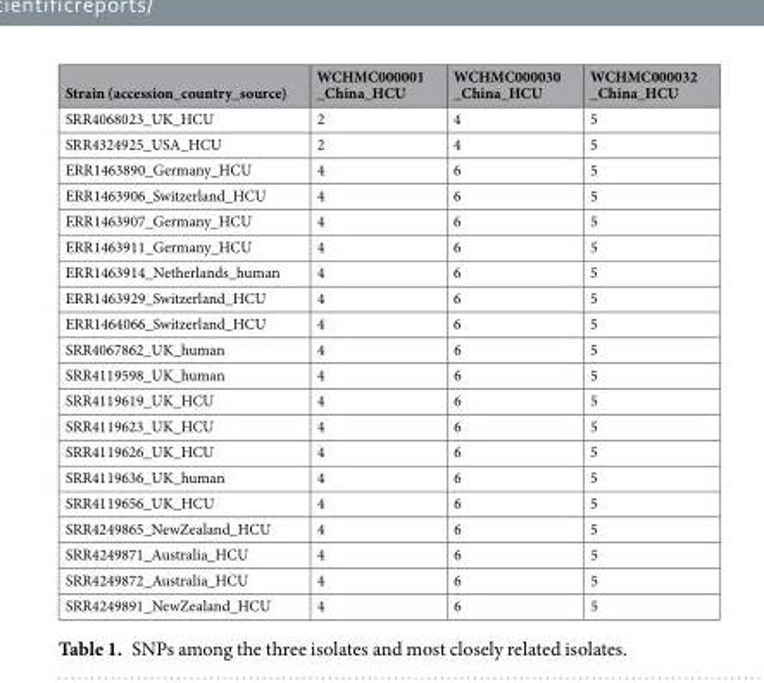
<table><thead><tr><td>Strain (accession_country_source)</td><td>WCHMC000001 _China_HCU</td><td>WCHMC000030 _China_HCU</td><td>WCHMC000032 _China_HCU</td></tr></thead><tbody><tr><td>SRR4068023_UK_HCU</td><td>2</td><td>4</td><td>5</td></tr><tr><td>SRR4324925_USA_HCU</td><td>2</td><td>4</td><td>5</td></tr><tr><td>ERR1463890_Germany_HCU</td><td>4</td><td>6</td><td>5</td></tr><tr><td>ERR1463906_Switzerland_HCU</td><td>4</td><td>6</td><td>5</td></tr><tr><td>ERR1463907_Germany_HCU</td><td>4</td><td>6</td><td>5</td></tr><tr><td>ERR1463911_Germany_HCU</td><td>4</td><td>6</td><td>5</td></tr><tr><td>ERR1463914_Netherlands_human</td><td>4</td><td>6</td><td>5</td></tr><tr><td>ERR1463929_Switzerland_HCU</td><td>4</td><td>6</td><td>5</td></tr><tr><td>ERR1464066_Switzerland_HCU</td><td>4</td><td>6</td><td>5</td></tr><tr><td>SRR4067862_UK_human</td><td>4</td><td>6</td><td>5</td></tr><tr><td>SRR4119598_UK_human</td><td>4</td><td>6</td><td>5</td></tr><tr><td>SRR4119619_UK_HCU</td><td>4</td><td>6</td><td>5</td></tr><tr><td>SRR4119623_UK_HCU</td><td>4</td><td>6</td><td>5</td></tr><tr><td>SRR4119626_UK_HCU</td><td>4</td><td>6</td><td>5</td></tr><tr><td>SRR4119636_UK_human</td><td>4</td><td>6</td><td>5</td></tr><tr><td>SRR4119656_UK_HCU</td><td>4</td><td>6</td><td>5</td></tr><tr><td>SRR4249865_NewZealand_HCU</td><td>4</td><td>6</td><td>5</td></tr><tr><td>SRR4249871_Australia_HCU</td><td>4</td><td>6</td><td>5</td></tr><tr><td>SRR4249872_Australia_HCU</td><td>4</td><td>6</td><td>5</td></tr><tr><td>SRR4249891_NewZealand_HCU</td><td>4</td><td>6</td><td>5</td></tr></tbody></table>